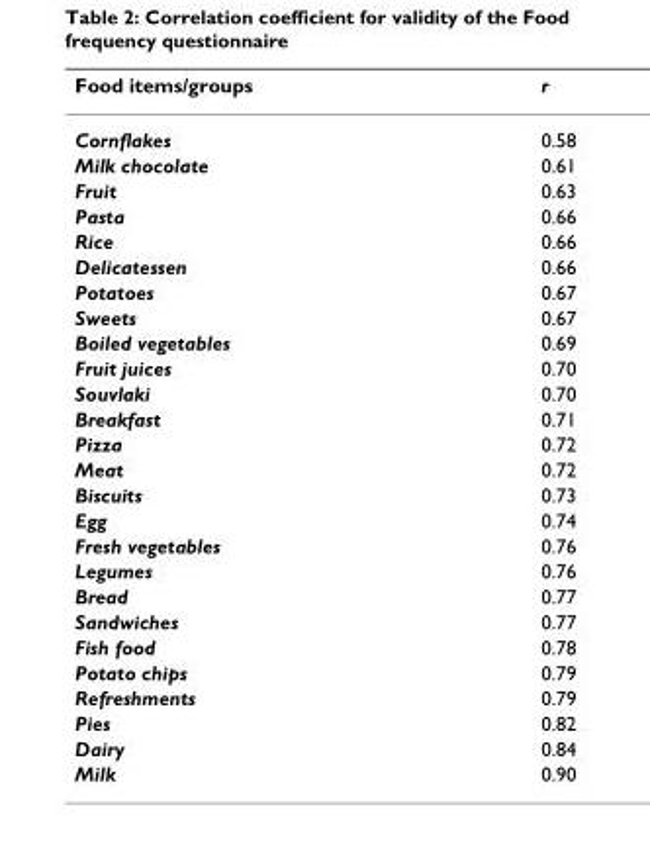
<table><thead><tr><td>Food items/groups</td><td>r</td></tr></thead><tbody><tr><td>Cornflakes</td><td>0.58</td></tr><tr><td>Milk chocolate</td><td>0.61</td></tr><tr><td>Fruit</td><td>0.63</td></tr><tr><td>Pasta</td><td>0.66</td></tr><tr><td>Rice</td><td>0.66</td></tr><tr><td>Delicatessen</td><td>0.66</td></tr><tr><td>Potatoes</td><td>0.67</td></tr><tr><td>Sweets</td><td>0.67</td></tr><tr><td>Boiled vegetables</td><td>0.69</td></tr><tr><td>Fruit juices</td><td>0.70</td></tr><tr><td>Souvlaki</td><td>0.70</td></tr><tr><td>Breakfast</td><td>0.71</td></tr><tr><td>Pizza</td><td>0.72</td></tr><tr><td>Meat</td><td>0.72</td></tr><tr><td>Biscuits</td><td>0.73</td></tr><tr><td>Egg</td><td>0.74</td></tr><tr><td>Fresh vegetables</td><td>0.76</td></tr><tr><td>Legumes</td><td>0.76</td></tr><tr><td>Bread</td><td>0.77</td></tr><tr><td>Sandwiches</td><td>0.77</td></tr><tr><td>Fish food</td><td>0.78</td></tr><tr><td>Potato chips</td><td>0.79</td></tr><tr><td>Refreshments</td><td>0.79</td></tr><tr><td>Pies</td><td>0.82</td></tr><tr><td>Dairy</td><td>0.84</td></tr><tr><td>Milk</td><td>0.90</td></tr></tbody></table>